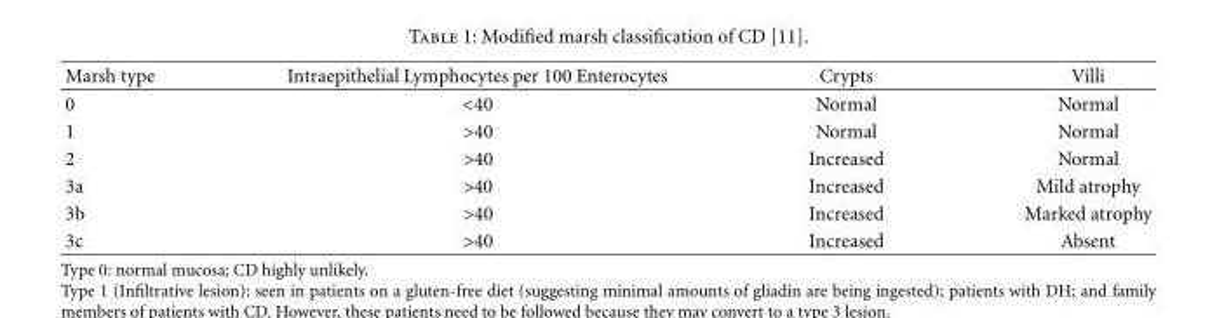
<table><thead><tr><td>Marsh type</td><td>Intraepithelial Lymphocytes per 100 Enterocytes</td><td>Crypts</td><td>Villi</td></tr></thead><tbody><tr><td>0</td><td>&lt;40</td><td>Normal</td><td>Normal</td></tr><tr><td>1</td><td>&gt;40</td><td>Normal</td><td>Normal</td></tr><tr><td>2</td><td>&gt;40</td><td>Increased</td><td>Normal</td></tr><tr><td>3a</td><td>&gt;40</td><td>Increased</td><td>Mild atrophy</td></tr><tr><td>3b</td><td>&gt;40</td><td>Increased</td><td>Marked atrophy</td></tr><tr><td>3c</td><td>&gt;40</td><td>Increased</td><td>Absent</td></tr></tbody></table>